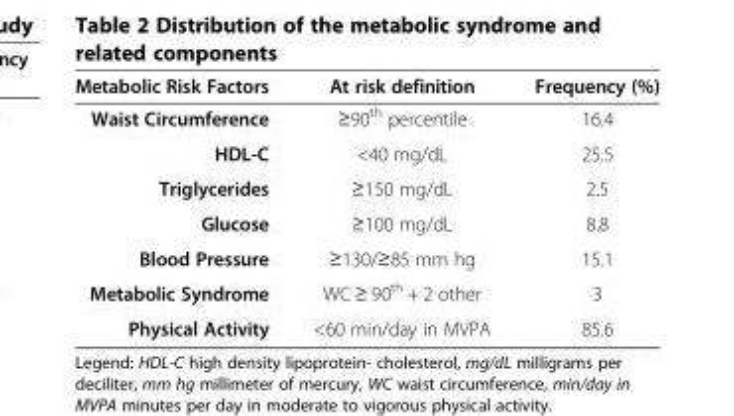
<table><thead><tr><td>Metabolic Risk Factors</td><td>At risk definition</td><td>Frequency (%)</td></tr></thead><tbody><tr><td>Waist Circumference</td><td>≥90<sup>th</sup> percentile</td><td>16.4</td></tr><tr><td>HDL-C</td><td>&lt;40 mg/dL</td><td>25.5</td></tr><tr><td>Triglycerides</td><td>≥150 mg/dL</td><td>2.5</td></tr><tr><td>Glucose</td><td>≥100 mg/dL</td><td>8.8</td></tr><tr><td>Blood Pressure</td><td>≥130/≥85 mm hg</td><td>15.1</td></tr><tr><td>Metabolic Syndrome</td><td>WC ≥ 90<sup>th</sup> + 2 other</td><td>3</td></tr><tr><td>Physical Activity</td><td>&lt;60 min/day in MVPA</td><td>85.6</td></tr></tbody></table>